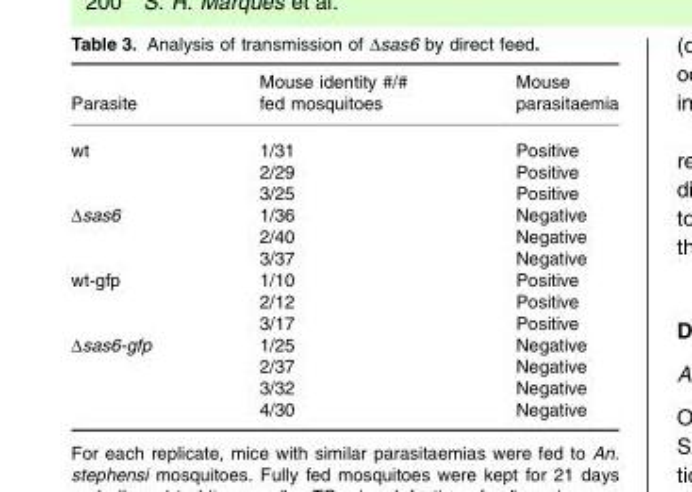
<table><thead><tr><td>Parasite</td><td>Mouse identity #/# fed mosquitoes</td><td>Mouse parasitaemia</td></tr></thead><tbody><tr><td rowspan="3">wt</td><td>1/31</td><td>Positive</td></tr><tr><td>2/29</td><td>Positive</td></tr><tr><td>3/25</td><td>Positive</td></tr><tr><td rowspan="3">Δsas6</td><td>1/36</td><td>Negative</td></tr><tr><td>2/40</td><td>Negative</td></tr><tr><td>3/37</td><td>Negative</td></tr><tr><td rowspan="3">wt-gfp</td><td>1/10</td><td>Positive</td></tr><tr><td>2/12</td><td>Positive</td></tr><tr><td>3/17</td><td>Positive</td></tr><tr><td rowspan="4">Δsas6-gfp</td><td>1/25</td><td>Negative</td></tr><tr><td>2/37</td><td>Negative</td></tr><tr><td>3/32</td><td>Negative</td></tr><tr><td>4/30</td><td>Negative</td></tr></tbody></table>